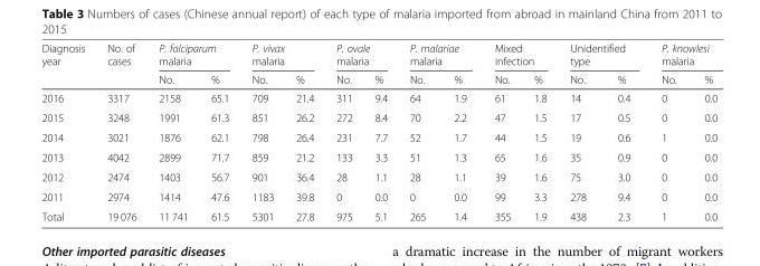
<table><thead><tr><td rowspan="2">Diagnosis year</td><td rowspan="2">No. of cases</td><td colspan="2">P. falciparum malaria</td><td colspan="2">P. vivax malaria</td><td colspan="2">P. ovale malaria</td><td colspan="2">P. malariae malaria</td><td colspan="2">Mixed infection</td><td colspan="2">Unidentified type</td><td colspan="2">P. knowlesi malaria</td></tr><tr><td>No.</td><td>%</td><td>No.</td><td>%</td><td>No.</td><td>%</td><td>No.</td><td>%</td><td>No.</td><td>%</td><td>No.</td><td>%</td><td>No.</td><td>%</td></tr></thead><tbody><tr><td>2016</td><td>3317</td><td>2158</td><td>65.1</td><td>709</td><td>21.4</td><td>311</td><td>9.4</td><td>64</td><td>1.9</td><td>61</td><td>1.8</td><td>14</td><td>0.4</td><td>0</td><td>0.0</td></tr><tr><td>2015</td><td>3248</td><td>1991</td><td>61.3</td><td>851</td><td>26.2</td><td>272</td><td>8.4</td><td>70</td><td>2.2</td><td>47</td><td>1.5</td><td>17</td><td>0.5</td><td>0</td><td>0.0</td></tr><tr><td>2014</td><td>3021</td><td>1876</td><td>62.1</td><td>798</td><td>26.4</td><td>231</td><td>7.7</td><td>52</td><td>1.7</td><td>44</td><td>1.5</td><td>19</td><td>0.6</td><td>1</td><td>0.0</td></tr><tr><td>2013</td><td>4042</td><td>2899</td><td>71.7</td><td>859</td><td>21.2</td><td>133</td><td>3.3</td><td>51</td><td>1.3</td><td>65</td><td>1.6</td><td>35</td><td>0.9</td><td>0</td><td>0.0</td></tr><tr><td>2012</td><td>2474</td><td>1403</td><td>56.7</td><td>901</td><td>36.4</td><td>28</td><td>1.1</td><td>28</td><td>1.1</td><td>39</td><td>1.6</td><td>75</td><td>3.0</td><td>0</td><td>0.0</td></tr><tr><td>2011</td><td>2974</td><td>1414</td><td>47.6</td><td>1183</td><td>39.8</td><td>0</td><td>0.0</td><td>0</td><td>0.0</td><td>99</td><td>3.3</td><td>278</td><td>9.4</td><td>0</td><td>0.0</td></tr><tr><td>Total</td><td>19 076</td><td>11 741</td><td>61.5</td><td>5301</td><td>27.8</td><td>975</td><td>5.1</td><td>265</td><td>1.4</td><td>355</td><td>1.9</td><td>438</td><td>2.3</td><td>1</td><td>0.0</td></tr></tbody></table>